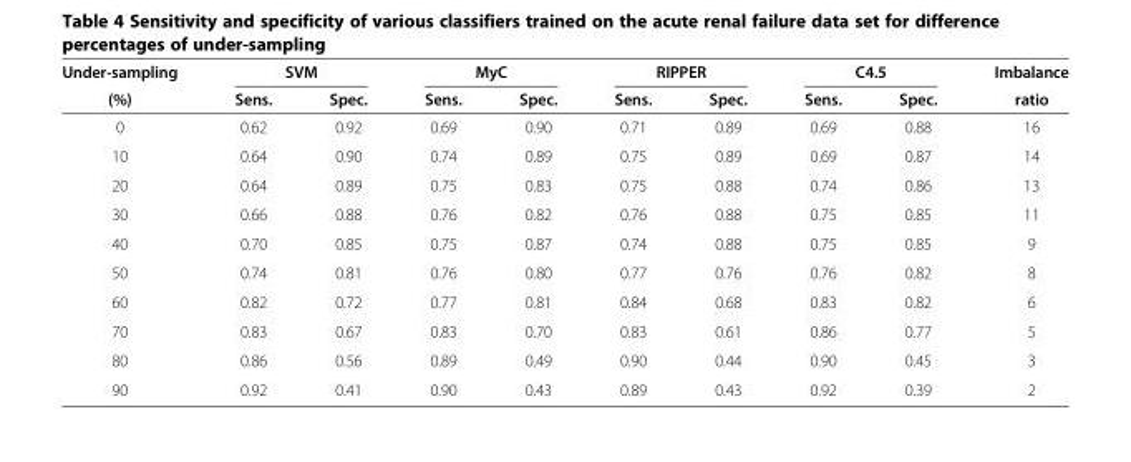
<table><thead><tr><td rowspan="2">Under-sampling (%)</td><td colspan="2">SVM</td><td colspan="2">MyC</td><td colspan="2">RIPPER</td><td colspan="2">C4.5</td><td rowspan="2">Imbalance ratio</td></tr><tr><td>Sens.</td><td>Spec.</td><td>Sens.</td><td>Spec.</td><td>Sens.</td><td>Spec.</td><td>Sens.</td><td>Spec.</td></tr></thead><tbody><tr><td>0</td><td>0.62</td><td>0.92</td><td>0.69</td><td>0.90</td><td>0.71</td><td>0.89</td><td>0.69</td><td>0.88</td><td>16</td></tr><tr><td>10</td><td>0.64</td><td>0.90</td><td>0.74</td><td>0.89</td><td>0.75</td><td>0.89</td><td>0.69</td><td>0.87</td><td>14</td></tr><tr><td>20</td><td>0.64</td><td>0.89</td><td>0.75</td><td>0.83</td><td>0.75</td><td>0.88</td><td>0.74</td><td>0.86</td><td>13</td></tr><tr><td>30</td><td>0.66</td><td>0.88</td><td>0.76</td><td>0.82</td><td>0.76</td><td>0.88</td><td>0.75</td><td>0.85</td><td>11</td></tr><tr><td>40</td><td>0.70</td><td>0.85</td><td>0.75</td><td>0.87</td><td>0.74</td><td>0.88</td><td>0.75</td><td>0.85</td><td>9</td></tr><tr><td>50</td><td>0.74</td><td>0.81</td><td>0.76</td><td>0.80</td><td>0.77</td><td>0.76</td><td>0.76</td><td>0.82</td><td>8</td></tr><tr><td>60</td><td>0.82</td><td>0.72</td><td>0.77</td><td>0.81</td><td>0.84</td><td>0.68</td><td>0.83</td><td>0.82</td><td>6</td></tr><tr><td>70</td><td>0.83</td><td>0.67</td><td>0.83</td><td>0.70</td><td>0.83</td><td>0.61</td><td>0.86</td><td>0.77</td><td>5</td></tr><tr><td>80</td><td>0.86</td><td>0.56</td><td>0.89</td><td>0.49</td><td>0.90</td><td>0.44</td><td>0.90</td><td>0.45</td><td>3</td></tr><tr><td>90</td><td>0.92</td><td>0.41</td><td>0.90</td><td>0.43</td><td>0.89</td><td>0.43</td><td>0.92</td><td>0.39</td><td>2</td></tr></tbody></table>